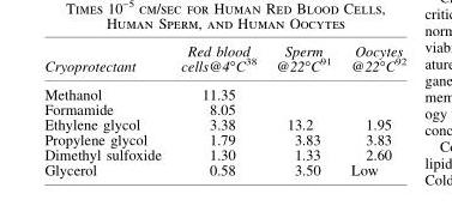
<table><thead><tr><td>Cryoprotectant</td><td>Red blood cells@4°C<sup>38</sup></td><td>Sperm @22°C<sup>91</sup></td><td>Oocytes @22°C<sup>92</sup></td></tr></thead><tbody><tr><td>Methanol</td><td>11.35</td><td></td><td></td></tr><tr><td>Formamide</td><td>8.05</td><td></td><td></td></tr><tr><td>Ethylene glycol</td><td>3.38</td><td>13.2</td><td>1.95</td></tr><tr><td>Propylene glycol</td><td>1.79</td><td>3.83</td><td>3.83</td></tr><tr><td>Dimethyl sulfoxide</td><td>1.30</td><td>1.33</td><td>2.60</td></tr><tr><td>Glycerol</td><td>0.58</td><td>3.50</td><td>Low</td></tr></tbody></table>